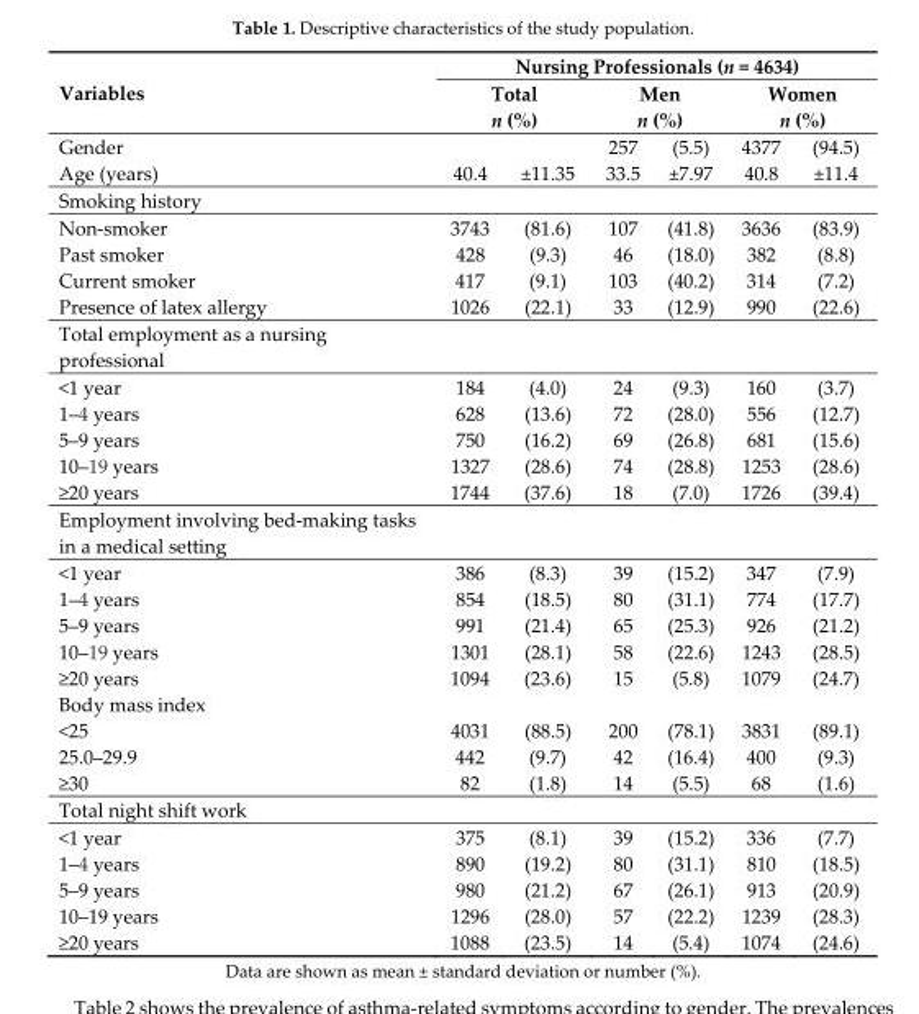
<table><thead><tr><td rowspan="4">Variables Gender</td><td colspan="6">Nursing Professionals (n = 4634)</td></tr><tr><td rowspan="2" colspan="2">Total n (%)</td><td rowspan="2" colspan="2">Men n (%)</td><td rowspan="2" colspan="2">Women n (%)</td></tr><tr></tr><tr><td></td><td></td><td>257</td><td>(5.5)</td><td>4377</td><td>(94.5)</td></tr></thead><tbody><tr><td>Age (years)</td><td>40.4</td><td>±11.35</td><td>33.5</td><td>±7.97</td><td>40.8</td><td>±11.4</td></tr><tr><td colspan="7">Smoking history</td></tr><tr><td>Non-smoker</td><td>3743</td><td>(81.6)</td><td>107</td><td>(41.8)</td><td>3636</td><td>(83.9)</td></tr><tr><td>Past smoker</td><td>428</td><td>(9.3)</td><td>46</td><td>(18.0)</td><td>382</td><td>(8.8)</td></tr><tr><td>Current smoker</td><td>417</td><td>(9.1)</td><td>103</td><td>(40.2)</td><td>314</td><td>(7.2)</td></tr><tr><td>Presence of latex allergy</td><td>1026</td><td>(22.1)</td><td>33</td><td>(12.9)</td><td>990</td><td>(22.6)</td></tr><tr><td colspan="7">Total employment as a nursing professional</td></tr><tr><td>&lt;1 year</td><td>184</td><td>(4.0)</td><td>24</td><td>(9.3)</td><td>160</td><td>(3.7)</td></tr><tr><td>1–4 years</td><td>628</td><td>(13.6)</td><td>72</td><td>(28.0)</td><td>556</td><td>(12.7)</td></tr><tr><td>5–9 years</td><td>750</td><td>(16.2)</td><td>69</td><td>(26.8)</td><td>681</td><td>(15.6)</td></tr><tr><td>10–19 years</td><td>1327</td><td>(28.6)</td><td>74</td><td>(28.8)</td><td>1253</td><td>(28.6)</td></tr><tr><td>≥20 years</td><td>1744</td><td>(37.6)</td><td>18</td><td>(7.0)</td><td>1726</td><td>(39.4)</td></tr><tr><td colspan="7">Employment involving bed-making tasks in a medical setting</td></tr><tr><td>&lt;1 year</td><td>386</td><td>(8.3)</td><td>39</td><td>(15.2)</td><td>347</td><td>(7.9)</td></tr><tr><td>1–4 years</td><td>854</td><td>(18.5)</td><td>80</td><td>(31.1)</td><td>774</td><td>(17.7)</td></tr><tr><td>5–9 years</td><td>991</td><td>(21.4)</td><td>65</td><td>(25.3)</td><td>926</td><td>(21.2)</td></tr><tr><td>10–19 years</td><td>1301</td><td>(28.1)</td><td>58</td><td>(22.6)</td><td>1243</td><td>(28.5)</td></tr><tr><td>≥20 years</td><td>1094</td><td>(23.6)</td><td>15</td><td>(5.8)</td><td>1079</td><td>(24.7)</td></tr><tr><td colspan="7">Body mass index</td></tr><tr><td>&lt;25</td><td>4031</td><td>(88.5)</td><td>200</td><td>(78.1)</td><td>3831</td><td>(89.1)</td></tr><tr><td>25.0–29.9</td><td>442</td><td>(9.7)</td><td>42</td><td>(16.4)</td><td>400</td><td>(9.3)</td></tr><tr><td>≥30</td><td>82</td><td>(1.8)</td><td>14</td><td>(5.5)</td><td>68</td><td>(1.6)</td></tr><tr><td colspan="7">Total night shift work</td></tr><tr><td>&lt;1 year</td><td>375</td><td>(8.1)</td><td>39</td><td>(15.2)</td><td>336</td><td>(7.7)</td></tr><tr><td>1–4 years</td><td>890</td><td>(19.2)</td><td>80</td><td>(31.1)</td><td>810</td><td>(18.5)</td></tr><tr><td>5–9 years</td><td>980</td><td>(21.2)</td><td>67</td><td>(26.1)</td><td>913</td><td>(20.9)</td></tr><tr><td>10–19 years</td><td>1296</td><td>(28.0)</td><td>57</td><td>(22.2)</td><td>1239</td><td>(28.3)</td></tr><tr><td>≥20 years</td><td>1088</td><td>(23.5)</td><td>14</td><td>(5.4)</td><td>1074</td><td>(24.6)</td></tr></tbody></table>